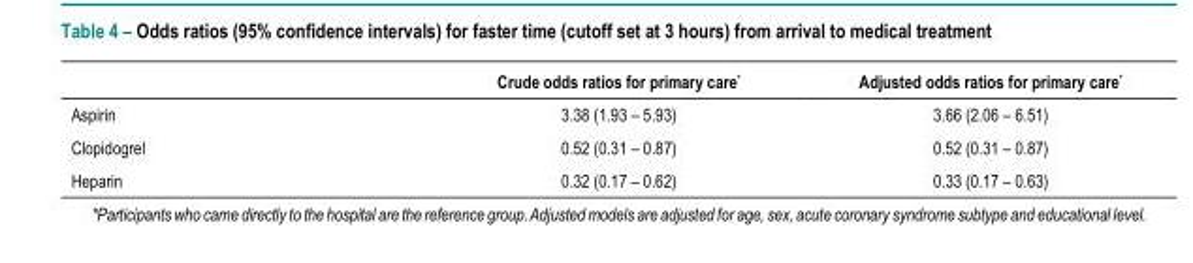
<table><thead><tr><td></td><td>Crude odds ratios for primary care*</td><td>Adjusted odds ratios for primary care*</td></tr></thead><tbody><tr><td>Aspirin</td><td>3.38 (1.93 – 5.93)</td><td>3.66 (2.06 – 6.51)</td></tr><tr><td>Clopidogrel</td><td>0.52 (0.31 – 0.87)</td><td>0.52 (0.31 – 0.87)</td></tr><tr><td>Heparin</td><td>0.32 (0.17 – 0.62)</td><td>0.33 (0.17 – 0.63)</td></tr></tbody></table>